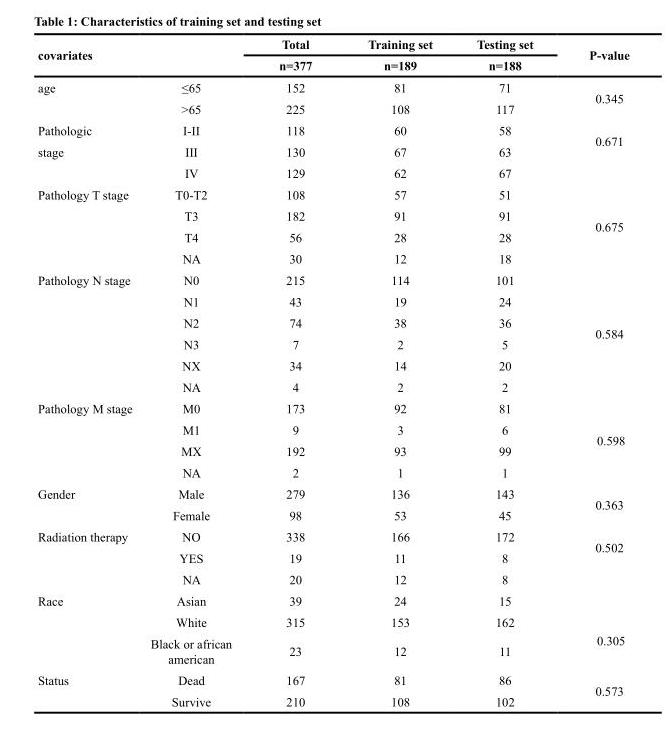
<table><thead><tr><td rowspan="2">covariates</td><td rowspan="2"></td><td rowspan="2">Total n=377</td><td rowspan="2">Training set n=189</td><td rowspan="2">Testing set n=188</td><td rowspan="2">P-value</td></tr><tr></tr></thead><tbody><tr><td rowspan="2">age</td><td>≤65</td><td>152</td><td>81</td><td>71</td><td rowspan="2">0.345</td></tr><tr><td>&gt;65</td><td>225</td><td>108</td><td>117</td></tr><tr><td rowspan="3">Pathologic stage</td><td>I-II</td><td>118</td><td>60</td><td>58</td><td rowspan="2">0.671</td></tr><tr><td>III</td><td>130</td><td>67</td><td>63</td></tr><tr><td>IV</td><td>129</td><td>62</td><td>67</td><td></td></tr><tr><td rowspan="4">Pathology T stage</td><td>T0-T2</td><td>108</td><td>57</td><td>51</td><td rowspan="4">0.675</td></tr><tr><td>T3</td><td>182</td><td>91</td><td>91</td></tr><tr><td>T4</td><td>56</td><td>28</td><td>28</td></tr><tr><td>NA</td><td>30</td><td>12</td><td>18</td></tr><tr><td rowspan="6">Pathology N stage</td><td>N0</td><td>215</td><td>114</td><td>101</td><td rowspan="6">0.584</td></tr><tr><td>N1</td><td>43</td><td>19</td><td>24</td></tr><tr><td>N2</td><td>74</td><td>38</td><td>36</td></tr><tr><td>N3</td><td>7</td><td>2</td><td>5</td></tr><tr><td>NX</td><td>34</td><td>14</td><td>20</td></tr><tr><td>NA</td><td>4</td><td>2</td><td>2</td></tr><tr><td rowspan="4">Pathology M stage</td><td>M0</td><td>173</td><td>92</td><td>81</td><td rowspan="4">0.598</td></tr><tr><td>M1</td><td>9</td><td>3</td><td>6</td></tr><tr><td>MX</td><td>192</td><td>93</td><td>99</td></tr><tr><td>NA</td><td>2</td><td>1</td><td>1</td></tr><tr><td rowspan="2">Gender</td><td>Male</td><td>279</td><td>136</td><td>143</td><td rowspan="2">0.363</td></tr><tr><td>Female</td><td>98</td><td>53</td><td>45</td></tr><tr><td rowspan="3">Radiation therapy</td><td>NO</td><td>338</td><td>166</td><td>172</td><td rowspan="2">0.502</td></tr><tr><td>YES</td><td>19</td><td>11</td><td>8</td></tr><tr><td>NA</td><td>20</td><td>12</td><td>8</td><td></td></tr><tr><td rowspan="3">Race</td><td>Asian</td><td>39</td><td>24</td><td>15</td><td></td></tr><tr><td>White</td><td>315</td><td>153</td><td>162</td><td rowspan="2">0.305</td></tr><tr><td>Black or african american</td><td>23</td><td>12</td><td>11</td></tr><tr><td rowspan="2">Status</td><td>Dead</td><td>167</td><td>81</td><td>86</td><td rowspan="2">0.573</td></tr><tr><td>Survive</td><td>210</td><td>108</td><td>102</td></tr></tbody></table>